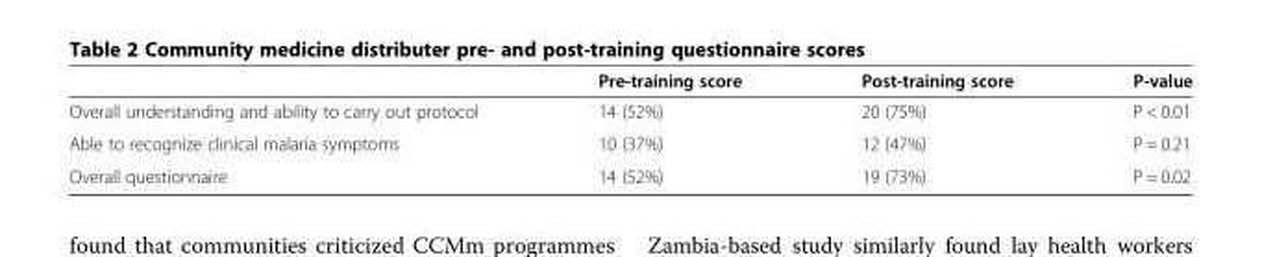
<table><thead><tr><td></td><td>Pre-training score</td><td>Post-training score</td><td>P-value</td></tr></thead><tbody><tr><td>Overall understanding and ability to carry out protocol</td><td>14 (52%)</td><td>20 (75%)</td><td>P &lt; 0.01</td></tr><tr><td>Able to recognize clinical malaria symptoms</td><td>10 (37%)</td><td>12 (47%)</td><td>P = 0.21</td></tr><tr><td>Overall questionnaire</td><td>14 (52%)</td><td>19 (73%)</td><td>P = 0.02</td></tr></tbody></table>